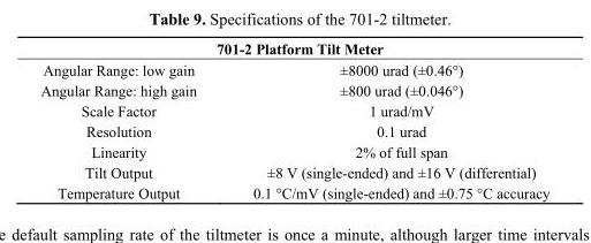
<table><thead><tr><td colspan="2">701-2 Platform Tilt Meter</td></tr><tr><td>Angular Range: low gain</td><td>±8000 urad (±0.46°)</td></tr></thead><tbody><tr><td>Angular Range: high gain</td><td>±800 urad (±0.046°)</td></tr><tr><td>Scale Factor</td><td>1 urad/mV</td></tr><tr><td>Resolution</td><td>0.1 urad</td></tr><tr><td>Linearity</td><td>2% of full span</td></tr><tr><td>Tilt Output</td><td>±8 V (single-ended) and ±16 V (differential)</td></tr><tr><td>Temperature Output</td><td>0.1 °C/mV (single-ended) and ±0.75 °C accuracy</td></tr></tbody></table>